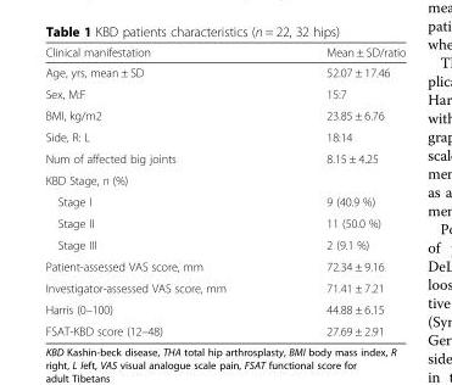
<table><thead><tr><td>Clinical manifestation</td><td>Mean ± SD/ratio</td></tr></thead><tbody><tr><td>Age, yrs, mean ± SD</td><td>52.07 ± 17.46</td></tr><tr><td>Sex, M:F</td><td>15:7</td></tr><tr><td>BMI, kg/m2</td><td>23.85 ± 6.76</td></tr><tr><td>Side, R: L</td><td>18:14</td></tr><tr><td>Num of affected big joints</td><td>8.15 ± 4.25</td></tr><tr><td colspan="2">KBD Stage, n (%)</td></tr><tr><td>Stage I</td><td>9 (40.9 %)</td></tr><tr><td>Stage II</td><td>11 (50.0 %)</td></tr><tr><td>Stage III</td><td>2 (9.1 %)</td></tr><tr><td>Patient-assessed VAS score, mm</td><td>72.34 ± 9.16</td></tr><tr><td>Investigator-assessed VAS score, mm</td><td>71.41 ± 7.21</td></tr><tr><td>Harris (0–100)</td><td>44.88 ± 6.15</td></tr><tr><td>FSAT-KBD score (12–48)</td><td>27.69 ± 2.91</td></tr></tbody></table>